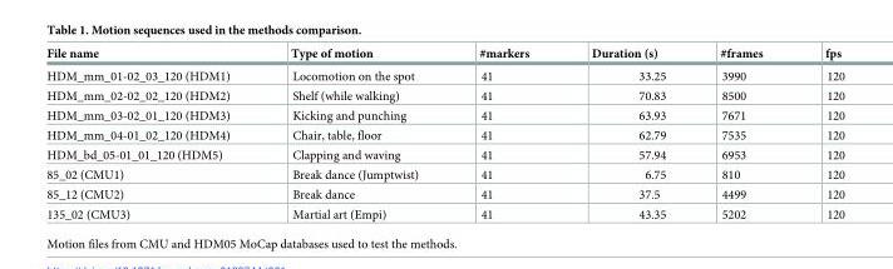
<table><thead><tr><td>File name</td><td>Type of motion</td><td>#markers</td><td>Duration (s)</td><td>#frames</td><td>fps</td></tr></thead><tbody><tr><td>HDM_mm_01-02_03_120 (HDM1)</td><td>Locomotion on the spot</td><td>41</td><td>33.25</td><td>3990</td><td>120</td></tr><tr><td>HDM_mm_02-02_02_120 (HDM2)</td><td>Shelf (while walking)</td><td>41</td><td>70.83</td><td>8500</td><td>120</td></tr><tr><td>HDM_mm_03-02_01_120 (HDM3)</td><td>Kicking and punching</td><td>41</td><td>63.93</td><td>7671</td><td>120</td></tr><tr><td>HDM_mm_04-01_02_120 (HDM4)</td><td>Chair, table, floor</td><td>41</td><td>62.79</td><td>7535</td><td>120</td></tr><tr><td>HDM_bd_05-01_01_120 (HDM5)</td><td>Clapping and waving</td><td>41</td><td>57.94</td><td>6953</td><td>120</td></tr><tr><td>85_02 (CMU1)</td><td>Break dance (Jumptwist)</td><td>41</td><td>6.75</td><td>810</td><td>120</td></tr><tr><td>85_12 (CMU2)</td><td>Break dance</td><td>41</td><td>37.5</td><td>4499</td><td>120</td></tr><tr><td>135_02 (CMU3)</td><td>Martial art (Empi)</td><td>41</td><td>43.35</td><td>5202</td><td>120</td></tr></tbody></table>